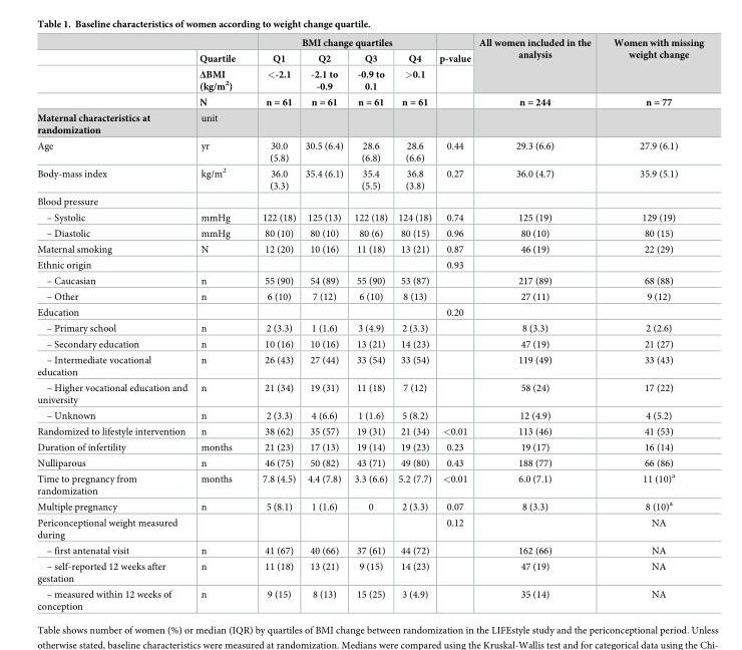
<table><thead><tr><td rowspan="4"></td><td rowspan="4">Quartile ΔBMI (kg/m2) N</td><td colspan="4">BMI change quartiles</td><td rowspan="4">p-value</td><td rowspan="4">All women included in the analysis n = 244</td><td rowspan="4">Women with missing weight change n = 77</td></tr><tr><td rowspan="3">Q1 &lt;-2.1 n = 61</td><td rowspan="3">Q2 -2.1 to -0.9 n = 61</td><td rowspan="3">Q3 -0.9 to 0.1 n = 61</td><td rowspan="3">Q4 &gt;0.1 n = 61</td></tr><tr></tr><tr></tr></thead><tbody><tr><td>Maternal characteristics at randomization</td><td>unit</td><td></td><td></td><td></td><td></td><td></td><td></td><td></td></tr><tr><td>Age</td><td>yr</td><td>30.0 (5.8)</td><td>30.5 (6.4)</td><td>28.6 (6.8)</td><td>28.6 (6.6)</td><td>0.44</td><td>29.3 (6.6)</td><td>27.9 (6.1)</td></tr><tr><td>Body-mass index</td><td>kg/m<sup>2</sup></td><td>36.0 (3.3)</td><td>35.4 (6.1)</td><td>35.4 (5.5)</td><td>36.8 (3.8)</td><td>0.27</td><td>36.0 (4.7)</td><td>35.9 (5.1)</td></tr><tr><td colspan="9">Blood pressure</td></tr><tr><td>– Systolic</td><td>mmHg</td><td>122 (18)</td><td>125 (13)</td><td>122 (18)</td><td>124 (18)</td><td>0.74</td><td>125 (19)</td><td>129 (19)</td></tr><tr><td>– Diastolic</td><td>mmHg</td><td>80 (10)</td><td>80 (10)</td><td>80 (6)</td><td>80 (15)</td><td>0.96</td><td>80 (10)</td><td>80 (15)</td></tr><tr><td>Maternal smoking</td><td>N</td><td>12 (20)</td><td>10 (16)</td><td>11 (18)</td><td>13 (21)</td><td>0.87</td><td>46 (19)</td><td>22 (29)</td></tr><tr><td>Ethnic origin</td><td></td><td></td><td></td><td></td><td></td><td>0.93</td><td></td><td></td></tr><tr><td>– Caucasian</td><td>n</td><td>55 (90)</td><td>54 (89)</td><td>55 (90)</td><td>53 (87)</td><td></td><td>217 (89)</td><td>68 (88)</td></tr><tr><td>– Other</td><td>n</td><td>6 (10)</td><td>7 (12)</td><td>6 (10)</td><td>8 (13)</td><td></td><td>27 (11)</td><td>9 (12)</td></tr><tr><td>Education</td><td></td><td></td><td></td><td></td><td></td><td>0.20</td><td></td><td></td></tr><tr><td>– Primary school</td><td>n</td><td>2 (3.3)</td><td>1 (1.6)</td><td>3 (4.9)</td><td>2 (3.3)</td><td></td><td>8 (3.3)</td><td>2 (2.6)</td></tr><tr><td>– Secondary education</td><td>n</td><td>10 (16)</td><td>10 (16)</td><td>13 (21)</td><td>14 (23)</td><td></td><td>47 (19)</td><td>21 (27)</td></tr><tr><td>– Intermediate vocational education</td><td>n</td><td>26 (43)</td><td>27 (44)</td><td>33 (54)</td><td>33 (54)</td><td></td><td>119 (49)</td><td>33 (43)</td></tr><tr><td>– Higher vocational education and university</td><td>n</td><td>21 (34)</td><td>19 (31)</td><td>11 (18)</td><td>7 (12)</td><td></td><td>58 (24)</td><td>17 (22)</td></tr><tr><td>– Unknown</td><td>n</td><td>2 (3.3)</td><td>4 (6.6)</td><td>1 (1.6)</td><td>5 (8.2)</td><td></td><td>12 (4.9)</td><td>4 (5.2)</td></tr><tr><td>Randomized to lifestyle intervention</td><td>n</td><td>38 (62)</td><td>35 (57)</td><td>19 (31)</td><td>21 (34)</td><td>&lt;0.01</td><td>113 (46)</td><td>41 (53)</td></tr><tr><td>Duration of infertility</td><td>months</td><td>21 (23)</td><td>17 (13)</td><td>19 (14)</td><td>19 (23)</td><td>0.23</td><td>19 (17)</td><td>16 (14)</td></tr><tr><td>Nulliparous</td><td>n</td><td>46 (75)</td><td>50 (82)</td><td>43 (71)</td><td>49 (80)</td><td>0.43</td><td>188 (77)</td><td>66 (86)</td></tr><tr><td>Time to pregnancy from randomization</td><td>months</td><td>7.8 (4.5)</td><td>4.4 (7.8)</td><td>3.3 (6.6)</td><td>5.2 (7.7)</td><td>&lt;0.01</td><td>6.0 (7.1)</td><td>11 (10)<sup>a</sup></td></tr><tr><td>Multiple pregnancy</td><td>n</td><td>5 (8.1)</td><td>1 (1.6)</td><td>0</td><td>2 (3.3)</td><td>0.07</td><td>8 (3.3)</td><td>8 (10)<sup>a</sup></td></tr><tr><td>Periconceptional weight measured during</td><td></td><td></td><td></td><td></td><td></td><td>0.12</td><td></td><td>NA</td></tr><tr><td>– first antenatal visit</td><td>n</td><td>41 (67)</td><td>40 (66)</td><td>37 (61)</td><td>44 (72)</td><td></td><td>162 (66)</td><td>NA</td></tr><tr><td>– self-reported 12 weeks after gestation</td><td>n</td><td>11 (18)</td><td>13 (21)</td><td>9 (15)</td><td>14 (23)</td><td></td><td>47 (19)</td><td>NA</td></tr><tr><td>– measured within 12 weeks of conception</td><td>n</td><td>9 (15)</td><td>8 (13)</td><td>15 (25)</td><td>3 (4.9)</td><td></td><td>35 (14)</td><td>NA</td></tr></tbody></table>